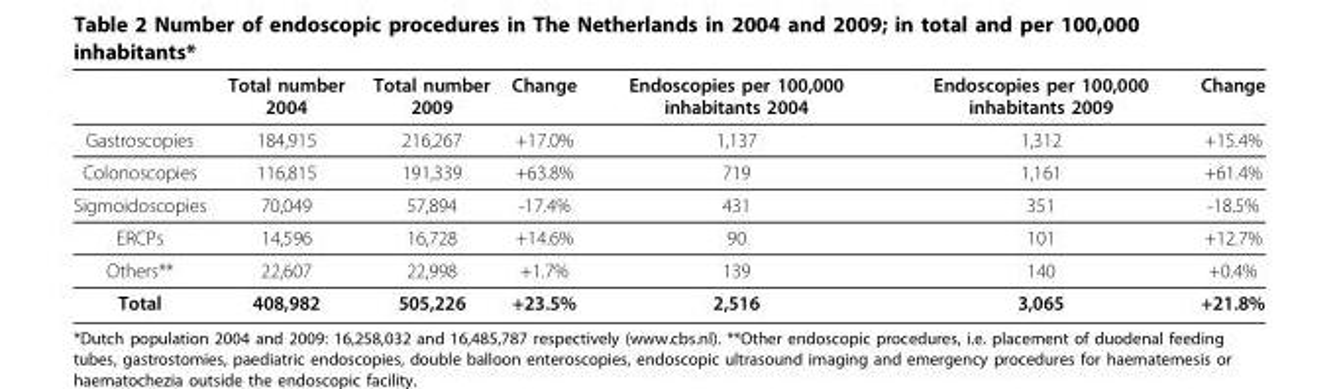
<table><thead><tr><td></td><td>Total number 2004</td><td>Total number 2009</td><td>Change</td><td>Endoscopies per 100,000 inhabitants 2004</td><td>Endoscopies per 100,000 inhabitants 2009</td><td>Change</td></tr></thead><tbody><tr><td>Gastroscopies</td><td>184,915</td><td>216,267</td><td>+17.0%</td><td>1,137</td><td>1,312</td><td>+15.4%</td></tr><tr><td>Colonoscopies</td><td>116,815</td><td>191,339</td><td>+63.8%</td><td>719</td><td>1,161</td><td>+61.4%</td></tr><tr><td>Sigmoidoscopies</td><td>70,049</td><td>57,894</td><td>-17.4%</td><td>431</td><td>351</td><td>-18.5%</td></tr><tr><td>ERCPs</td><td>14,596</td><td>16,728</td><td>+14.6%</td><td>90</td><td>101</td><td>+12.7%</td></tr><tr><td>Others**</td><td>22,607</td><td>22,998</td><td>+1.7%</td><td>139</td><td>140</td><td>+0.4%</td></tr><tr><td>Total</td><td>408,982</td><td>505,226</td><td>+23.5%</td><td>2,516</td><td>3,065</td><td>+21.8%</td></tr></tbody></table>